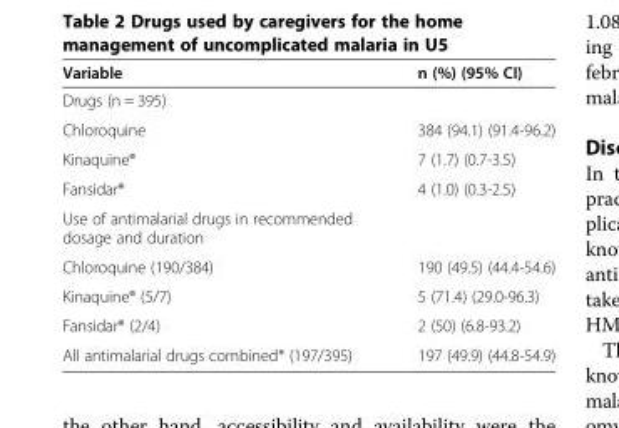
<table><thead><tr><td>Variable</td><td>n (%) (95% CI)</td></tr></thead><tbody><tr><td colspan="2">Drugs (n = 395)</td></tr><tr><td>Chloroquine</td><td>384 (94.1) (91.4-96.2)</td></tr><tr><td>Kinaquine®</td><td>7 (1.7) (0.7-3.5)</td></tr><tr><td>Fansidar®</td><td>4 (1.0) (0.3-2.5)</td></tr><tr><td colspan="2">Use of antimalarial drugs in recommended dosage and duration</td></tr><tr><td>Chloroquine (190/384)</td><td>190 (49.5) (44.4-54.6)</td></tr><tr><td>Kinaquine® (5/7)</td><td>5 (71.4) (29.0-96.3)</td></tr><tr><td>Fansidar® (2/4)</td><td>2 (50) (6.8-93.2)</td></tr><tr><td>All antimalarial drugs combined* (197/395)</td><td>197 (49.9) (44.8-54.9)</td></tr></tbody></table>